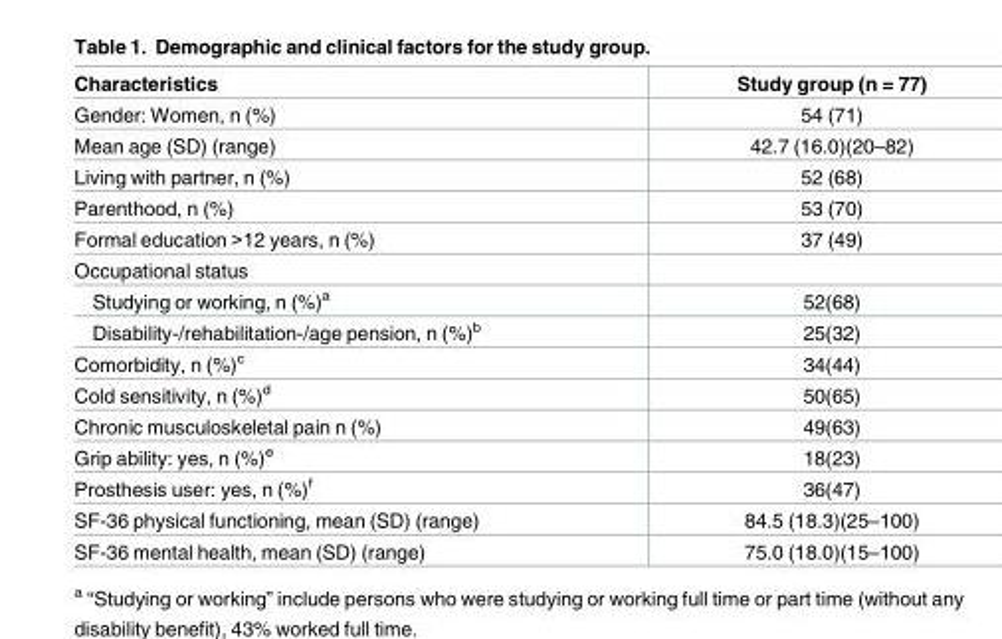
<table><thead><tr><td>Characteristics</td><td>Study group (n = 77)</td></tr></thead><tbody><tr><td>Gender: Women, n (%)</td><td>54 (71)</td></tr><tr><td>Mean age (SD) (range)</td><td>42.7 (16.0)(20–82)</td></tr><tr><td>Living with partner, n (%)</td><td>52 (68)</td></tr><tr><td>Parenthood, n (%)</td><td>53 (70)</td></tr><tr><td>Formal education &gt;12 years, n (%)</td><td>37 (49)</td></tr><tr><td colspan="2">Occupational status</td></tr><tr><td>Studying or working, n (%)<sup>a</sup></td><td>52(68)</td></tr><tr><td>Disability-/rehabilitation-/age pension, n (%)<sup>b</sup></td><td>25(32)</td></tr><tr><td>Comorbidity, n (%)<sup>c</sup></td><td>34(44)</td></tr><tr><td>Cold sensitivity, n (%)<sup>d</sup></td><td>50(65)</td></tr><tr><td>Chronic musculoskeletal pain n (%)</td><td>49(63)</td></tr><tr><td>Grip ability: yes, n (%)<sup>e</sup></td><td>18(23)</td></tr><tr><td>Prosthesis user: yes, n (%)<sup>f</sup></td><td>36(47)</td></tr><tr><td>SF-36 physical functioning, mean (SD) (range)</td><td>84.5 (18.3)(25–100)</td></tr><tr><td>SF-36 mental health, mean (SD) (range)</td><td>75.0 (18.0)(15–100)</td></tr></tbody></table>